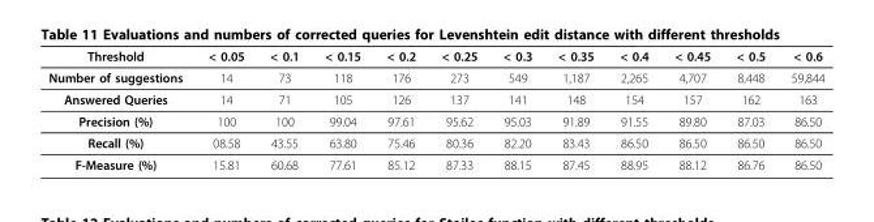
<table><thead><tr><td>Threshold</td><td>&lt; 0.05</td><td>&lt; 0.1</td><td>&lt; 0.15</td><td>&lt; 0.2</td><td>&lt; 0.25</td><td>&lt; 0.3</td><td>&lt; 0.35</td><td>&lt; 0.4</td><td>&lt; 0.45</td><td>&lt; 0.5</td><td>&lt; 0.6</td></tr></thead><tbody><tr><td>Number of suggestions</td><td>14</td><td>73</td><td>118</td><td>176</td><td>273</td><td>549</td><td>1,187</td><td>2,265</td><td>4,707</td><td>8,448</td><td>59,844</td></tr><tr><td>Answered Queries</td><td>14</td><td>71</td><td>105</td><td>126</td><td>137</td><td>141</td><td>148</td><td>154</td><td>157</td><td>162</td><td>163</td></tr><tr><td>Precision (%)</td><td>100</td><td>100</td><td>99.04</td><td>97.61</td><td>95.62</td><td>95.03</td><td>91.89</td><td>91.55</td><td>89.80</td><td>87.03</td><td>86.50</td></tr><tr><td>Recall (%)</td><td>08.58</td><td>43.55</td><td>63.80</td><td>75.46</td><td>80.36</td><td>82.20</td><td>83.43</td><td>86.50</td><td>86.50</td><td>86.50</td><td>86.50</td></tr><tr><td>F-Measure (%)</td><td>15.81</td><td>60.68</td><td>77.61</td><td>85.12</td><td>87.33</td><td>88.15</td><td>87.45</td><td>88.95</td><td>88.12</td><td>86.76</td><td>86.50</td></tr></tbody></table>